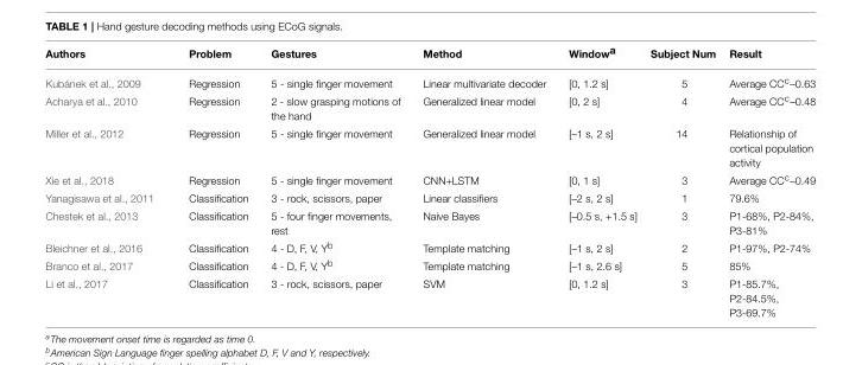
<table><thead><tr><td>Authors</td><td>Problem</td><td>Gestures</td><td>Method</td><td>Window<sup>a</sup></td><td>Subject Num</td><td>Result</td></tr></thead><tbody><tr><td>Kubánek et al., 2009</td><td>Regression</td><td>5 - single finger movement</td><td>Linear multivariate decoder</td><td>[0, 1.2 s]</td><td>5</td><td>Average CC<sup>c</sup>–0.63</td></tr><tr><td>Acharya et al., 2010</td><td>Regression</td><td>2 - slow grasping motions of the hand</td><td>Generalized linear model</td><td>[0, 2 s]</td><td>4</td><td>Average CC<sup>c</sup>–0.48</td></tr><tr><td>Miller et al., 2012</td><td>Regression</td><td>5 - single finger movement</td><td>Generalized linear model</td><td>[–1 s, 2 s]</td><td>14</td><td>Relationship of cortical population activity</td></tr><tr><td>Xie et al., 2018</td><td>Regression</td><td>5 - single finger movement</td><td>CNN+LSTM</td><td>[0, 1 s]</td><td>3</td><td>Average CC<sup>c</sup>–0.49</td></tr><tr><td>Yanagisawa et al., 2011</td><td>Classification</td><td>3 - rock, scissors, paper</td><td>Linear classifiers</td><td>[–2 s, 2 s]</td><td>1</td><td>79.6%</td></tr><tr><td>Chestek et al., 2013</td><td>Classification</td><td>5 - four finger movements, rest</td><td>Naive Bayes</td><td>[–0.5 s, +1.5 s]</td><td>3</td><td>P1-68%, P2-84%, P3-81%</td></tr><tr><td>Bleichner et al., 2016</td><td>Classification</td><td>4 - D, F, V, Y<sup>b</sup></td><td>Template matching</td><td>[–1 s, 2 s]</td><td>2</td><td>P1-97%, P2-74%</td></tr><tr><td>Branco et al., 2017</td><td>Classification</td><td>4 - D, F, V, Y<sup>b</sup></td><td>Template matching</td><td>[–1 s, 2.6 s]</td><td>5</td><td>85%</td></tr><tr><td>Li et al., 2017</td><td>Classification</td><td>3 - rock, scissors, paper</td><td>SVM</td><td>[0, 1.2 s]</td><td>3</td><td>P1-85.7%, P2-84.5%, P3-69.7%</td></tr></tbody></table>